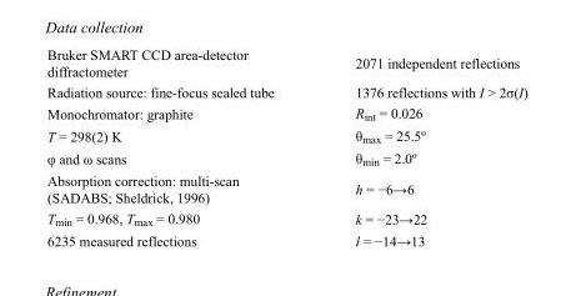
<table><tbody><tr><td>Bruker SMART CCD area-detector diffractometer</td><td>2071 independent reflections</td></tr><tr><td>Radiation source: fine-focus sealed tube</td><td>1376 reflections with I &gt; 2σ(I)</td></tr><tr><td>Monochromator: graphite</td><td>R<sub>int</sub> = 0.026</td></tr><tr><td>T = 298(2) K</td><td>θ<sub>max</sub> = 25.5º</td></tr><tr><td>φ and ω scans</td><td>θ<sub>min</sub> = 2.0º</td></tr><tr><td>Absorption correction: multi-scan (SADABS; Sheldrick, 1996)</td><td>h = −6→6</td></tr><tr><td>T<sub>min</sub> = 0.968, T<sub>max</sub> = 0.980</td><td>k = −23→22</td></tr><tr><td>6235 measured reflections</td><td>l = −14→13</td></tr></tbody></table>